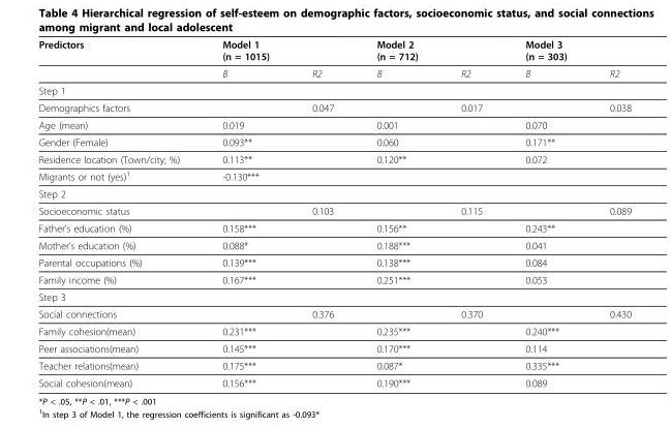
<table><thead><tr><td>Predictors</td><td>Model 1 (n = 1015)</td><td></td><td>Model 2 (n = 712)</td><td></td><td>Model 3 (n = 303)</td><td></td></tr></thead><tbody><tr><td></td><td>B</td><td>R2</td><td>B</td><td>R2</td><td>B</td><td>R2</td></tr><tr><td colspan="7">Step 1</td></tr><tr><td>Demographics factors</td><td></td><td>0.047</td><td></td><td>0.017</td><td></td><td>0.038</td></tr><tr><td>Age (mean)</td><td>0.019</td><td></td><td>0.001</td><td></td><td>0.070</td><td></td></tr><tr><td>Gender (Female)</td><td>0.093**</td><td></td><td>0.060</td><td></td><td>0.171**</td><td></td></tr><tr><td>Residence location (Town/city; %)</td><td>0.113**</td><td></td><td>0.120**</td><td></td><td>0.072</td><td></td></tr><tr><td>Migrants or not (yes)<sup>1</sup></td><td>-0.130***</td><td></td><td></td><td></td><td></td><td></td></tr><tr><td colspan="7">Step 2</td></tr><tr><td>Socioeconomic status</td><td></td><td>0.103</td><td></td><td>0.115</td><td></td><td>0.089</td></tr><tr><td>Father’s education (%)</td><td>0.158***</td><td></td><td>0.156**</td><td></td><td>0.243**</td><td></td></tr><tr><td>Mother’s education (%)</td><td>0.088*</td><td></td><td>0.188***</td><td></td><td>0.041</td><td></td></tr><tr><td>Parental occupations (%)</td><td>0.139***</td><td></td><td>0.138***</td><td></td><td>0.084</td><td></td></tr><tr><td>Family income (%)</td><td>0.167***</td><td></td><td>0.251***</td><td></td><td>0.053</td><td></td></tr><tr><td colspan="7">Step 3</td></tr><tr><td>Social connections</td><td></td><td>0.376</td><td></td><td>0.370</td><td></td><td>0.430</td></tr><tr><td>Family cohesion(mean)</td><td>0.231***</td><td></td><td>0.235***</td><td></td><td>0.240***</td><td></td></tr><tr><td>Peer associations(mean)</td><td>0.145***</td><td></td><td>0.170***</td><td></td><td>0.114</td><td></td></tr><tr><td>Teacher relations(mean)</td><td>0.175***</td><td></td><td>0.087*</td><td></td><td>0.335***</td><td></td></tr><tr><td>Social cohesion(mean)</td><td>0.156***</td><td></td><td>0.190***</td><td></td><td>0.089</td><td></td></tr></tbody></table>